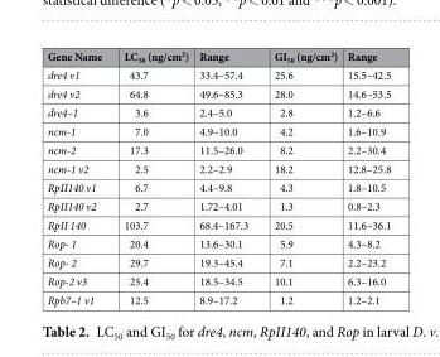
<table><thead><tr><td>Gene Name</td><td>LC<sub>50</sub> (ng/cm<sup>2</sup>)</td><td>Range</td><td>GI<sub>50</sub> (ng/cm<sup>2</sup>)</td><td>Range</td></tr></thead><tbody><tr><td>dre4 v1</td><td>43.7</td><td>33.4–57.4</td><td>25.6</td><td>15.5–42.5</td></tr><tr><td>dre4 v2</td><td>64.8</td><td>49.6–85.3</td><td>28.0</td><td>14.6–53.5</td></tr><tr><td>dre4–1</td><td>3.6</td><td>2.4–5.0</td><td>2.8</td><td>1.2–6.6</td></tr><tr><td>ncm-1</td><td>7.0</td><td>4.9–10.0</td><td>4.2</td><td>1.6–10.9</td></tr><tr><td>ncm-2</td><td>17.3</td><td>11.5–26.0</td><td>8.2</td><td>2.2–30.4</td></tr><tr><td>ncm-1 v2</td><td>2.5</td><td>2.2–2.9</td><td>18.2</td><td>12.8–25.8</td></tr><tr><td>RpII140 v1</td><td>6.7</td><td>4.4–9.8</td><td>4.3</td><td>1.8–10.5</td></tr><tr><td>RpII140 v2</td><td>2.7</td><td>1.72–4.01</td><td>1.3</td><td>0.8–2.3</td></tr><tr><td>RpII 140</td><td>103.7</td><td>68.4–167.3</td><td>20.5</td><td>11.6–36.1</td></tr><tr><td>Rop- 1</td><td>20.4</td><td>13.6–30.1</td><td>5.9</td><td>4.3–8.2</td></tr><tr><td>Rop- 2</td><td>29.7</td><td>19.3–45.4</td><td>7.1</td><td>2.2–23.2</td></tr><tr><td>Rop-2 v3</td><td>25.4</td><td>18.5–34.5</td><td>10.1</td><td>6.3–16.0</td></tr><tr><td>Rpb7–1 v1</td><td>12.5</td><td>8.9–17.2</td><td>1.2</td><td>1.2–2.1</td></tr></tbody></table>